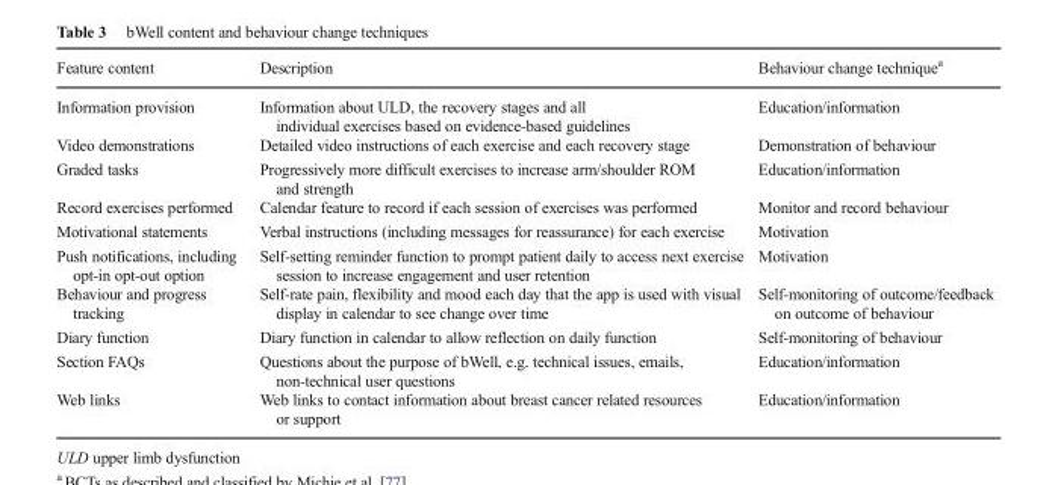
<table><thead><tr><td>Feature content</td><td>Description</td><td>Behaviour change technique<sup>a</sup></td></tr></thead><tbody><tr><td>Information provision</td><td>Information about ULD, the recovery stages and all individual exercises based on evidence-based guidelines</td><td>Education/information</td></tr><tr><td>Video demonstrations</td><td>Detailed video instructions of each exercise and each recovery stage</td><td>Demonstration of behaviour</td></tr><tr><td>Graded tasks</td><td>Progressively more difficult exercises to increase arm/shoulder ROM and strength</td><td>Education/information</td></tr><tr><td>Record exercises performed</td><td>Calendar feature to record if each session of exercises was performed</td><td>Monitor and record behaviour</td></tr><tr><td>Motivational statements</td><td>Verbal instructions (including messages for reassurance) for each exercise</td><td>Motivation</td></tr><tr><td>Push notifications, including opt-in opt-out option</td><td>Self-setting reminder function to prompt patient daily to access next exercise session to increase engagement and user retention</td><td>Motivation</td></tr><tr><td>Behaviour and progress tracking</td><td>Self-rate pain, flexibility and mood each day that the app is used with visual display in calendar to see change over time</td><td>Self-monitoring of outcome/feedback on outcome of behaviour</td></tr><tr><td>Diary function</td><td>Diary function in calendar to allow reflection on daily function</td><td>Self-monitoring of behaviour</td></tr><tr><td>Section FAQs</td><td>Questions about the purpose of bWell, e.g. technical issues, emails, non-technical user questions</td><td>Education/information</td></tr><tr><td>Web links</td><td>Web links to contact information about breast cancer related resources or support</td><td>Education/information</td></tr></tbody></table>